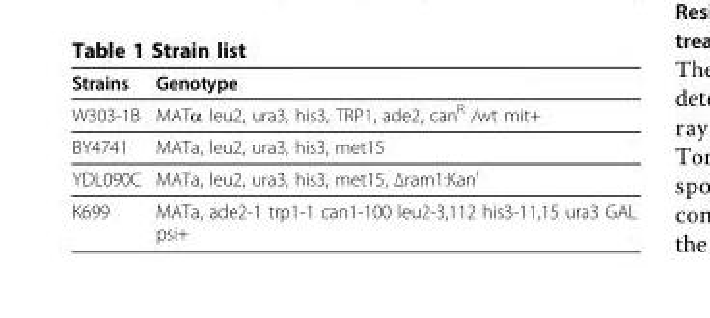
<table><thead><tr><td>Strains</td><td>Genotype</td></tr></thead><tbody><tr><td>W303-1B</td><td>MATα leu2, ura3, his3, TRP1, ade2, can<sup>R</sup> /wt mit+</td></tr><tr><td>BY4741</td><td>MATa, leu2, ura3, his3, met15</td></tr><tr><td>YDL090C</td><td>MATa, leu2, ura3, his3, met15, Δram1:Kan<sup>r</sup></td></tr><tr><td>K699</td><td>MATa, ade2-1 trp1-1 can1-100 leu2-3,112 his3-11,15 ura3 GAL psi+</td></tr></tbody></table>